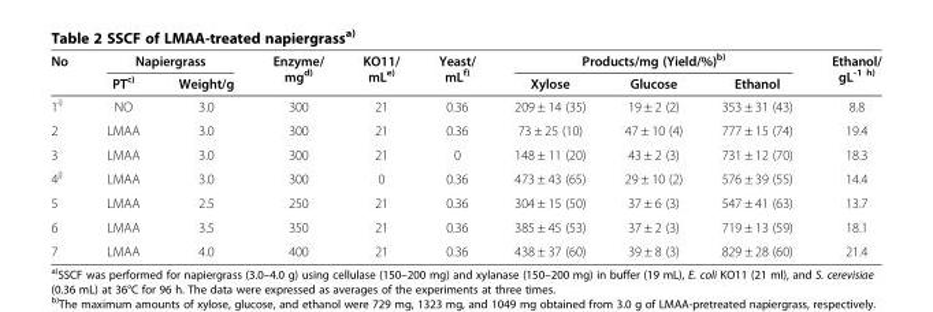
<table><thead><tr><td rowspan="2">No</td><td colspan="2">Napiergrass</td><td rowspan="2">Enzyme/ mg<sup>d)</sup></td><td rowspan="2">KO11/ mL<sup>e)</sup></td><td rowspan="2">Yeast/ mL<sup>f)</sup></td><td colspan="3">Products/mg (Yield/%)<sup>b)</sup></td><td rowspan="2">Ethanol/ gL<sup>-1 h)</sup></td></tr><tr><td>PT<sup>c)</sup></td><td>Weight/g</td><td>Xylose</td><td>Glucose</td><td>Ethanol</td></tr></thead><tbody><tr><td>1<sup>i)</sup></td><td>NO</td><td>3.0</td><td>300</td><td>21</td><td>0.36</td><td>209 ± 14 (35)</td><td>19 ± 2 (2)</td><td>353 ± 31 (43)</td><td>8.8</td></tr><tr><td>2</td><td>LMAA</td><td>3.0</td><td>300</td><td>21</td><td>0.36</td><td>73 ± 25 (10)</td><td>47 ± 10 (4)</td><td>777 ± 15 (74)</td><td>19.4</td></tr><tr><td>3</td><td>LMAA</td><td>3.0</td><td>300</td><td>21</td><td>0</td><td>148 ± 11 (20)</td><td>43 ± 2 (3)</td><td>731 ± 12 (70)</td><td>18.3</td></tr><tr><td>4<sup>j)</sup></td><td>LMAA</td><td>3.0</td><td>300</td><td>0</td><td>0.36</td><td>473 ± 43 (65)</td><td>29 ± 10 (2)</td><td>576 ± 39 (55)</td><td>14.4</td></tr><tr><td>5</td><td>LMAA</td><td>2.5</td><td>250</td><td>21</td><td>0.36</td><td>304 ± 15 (50)</td><td>37 ± 6 (3)</td><td>547 ± 41 (63)</td><td>13.7</td></tr><tr><td>6</td><td>LMAA</td><td>3.5</td><td>350</td><td>21</td><td>0.36</td><td>385 ± 45 (53)</td><td>37 ± 2 (3)</td><td>719 ± 13 (59)</td><td>18.1</td></tr><tr><td>7</td><td>LMAA</td><td>4.0</td><td>400</td><td>21</td><td>0.36</td><td>438 ± 37 (60)</td><td>39 ± 8 (3)</td><td>829 ± 28 (60)</td><td>21.4</td></tr></tbody></table>